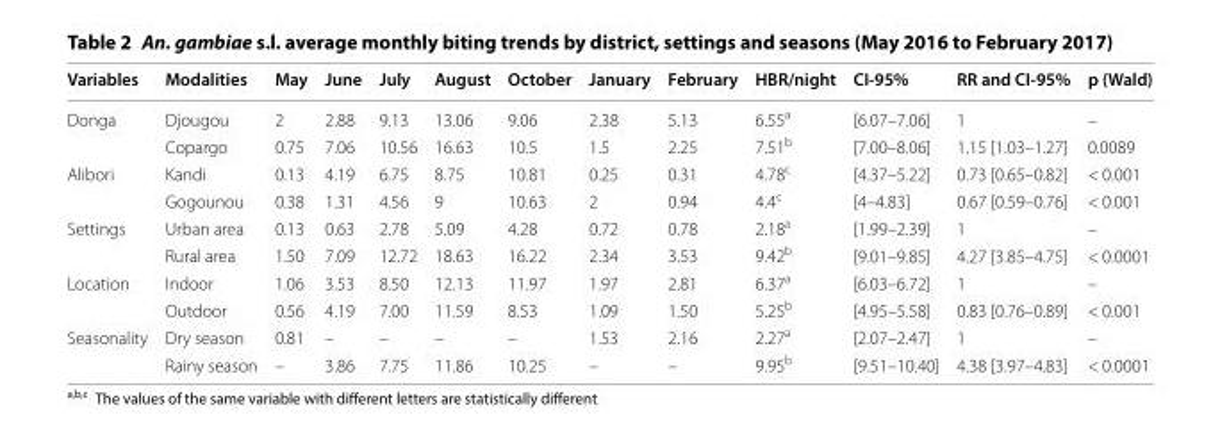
<table><thead><tr><td>Variables</td><td>Modalities</td><td>May</td><td>June</td><td>July</td><td>August</td><td>October</td><td>January</td><td>February</td><td>HBR/night</td><td>CI-95%</td><td>RR and CI-95%</td><td>p (Wald)</td></tr></thead><tbody><tr><td rowspan="2">Donga</td><td>Djougou</td><td>2</td><td>2.88</td><td>9.13</td><td>13.06</td><td>9.06</td><td>2.38</td><td>5.13</td><td>6.55<sup>a</sup></td><td>[6.07–7.06]</td><td>1</td><td>–</td></tr><tr><td>Copargo</td><td>0.75</td><td>7.06</td><td>10.56</td><td>16.63</td><td>10.5</td><td>1.5</td><td>2.25</td><td>7.51<sup>b</sup></td><td>[7.00–8.06]</td><td>1.15 [1.03–1.27]</td><td>0.0089</td></tr><tr><td rowspan="2">Alibori</td><td>Kandi</td><td>0.13</td><td>4.19</td><td>6.75</td><td>8.75</td><td>10.81</td><td>0.25</td><td>0.31</td><td>4.78<sup>c</sup></td><td>[4.37–5.22]</td><td>0.73 [0.65–0.82]</td><td>&lt; 0.001</td></tr><tr><td>Gogounou</td><td>0.38</td><td>1.31</td><td>4.56</td><td>9</td><td>10.63</td><td>2</td><td>0.94</td><td>4.4<sup>c</sup></td><td>[4–4.83]</td><td>0.67 [0.59–0.76]</td><td>&lt; 0.001</td></tr><tr><td rowspan="2">Settings</td><td>Urban area</td><td>0.13</td><td>0.63</td><td>2.78</td><td>5.09</td><td>4.28</td><td>0.72</td><td>0.78</td><td>2.18<sup>a</sup></td><td>[1.99–2.39]</td><td>1</td><td>–</td></tr><tr><td>Rural area</td><td>1.50</td><td>7.09</td><td>12.72</td><td>18.63</td><td>16.22</td><td>2.34</td><td>3.53</td><td>9.42<sup>b</sup></td><td>[9.01–9.85]</td><td>4.27 [3.85–4.75]</td><td>&lt; 0.0001</td></tr><tr><td rowspan="2">Location</td><td>Indoor</td><td>1.06</td><td>3.53</td><td>8.50</td><td>12.13</td><td>11.97</td><td>1.97</td><td>2.81</td><td>6.37<sup>a</sup></td><td>[6.03–6.72]</td><td>1</td><td>–</td></tr><tr><td>Outdoor</td><td>0.56</td><td>4.19</td><td>7.00</td><td>11.59</td><td>8.53</td><td>1.09</td><td>1.50</td><td>5.25<sup>b</sup></td><td>[4.95–5.58]</td><td>0.83 [0.76–0.89]</td><td>&lt; 0.001</td></tr><tr><td rowspan="2">Seasonality</td><td>Dry season</td><td>0.81</td><td>–</td><td>–</td><td>–</td><td>–</td><td>1.53</td><td>2.16</td><td>2.27<sup>a</sup></td><td>[2.07–2.47]</td><td>1</td><td>–</td></tr><tr><td>Rainy season</td><td>–</td><td>3.86</td><td>7.75</td><td>11.86</td><td>10.25</td><td>–</td><td>–</td><td>9.95<sup>b</sup></td><td>[9.51–10.40]</td><td>4.38 [3.97–4.83]</td><td>&lt; 0.0001</td></tr></tbody></table>